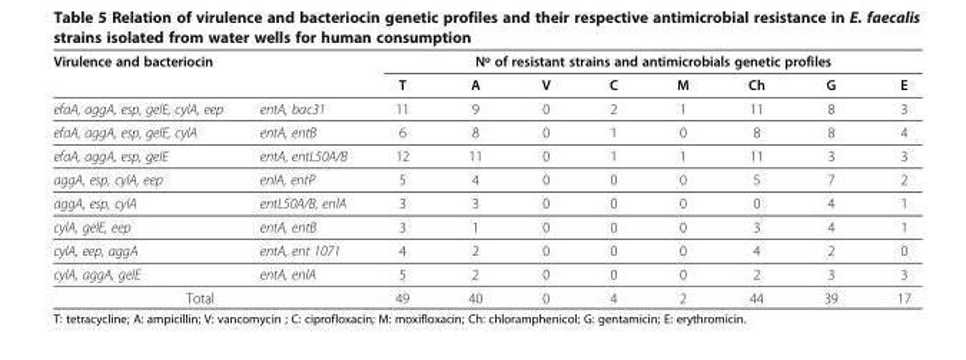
<table><thead><tr><td colspan="2">Virulence and bacteriocin</td><td colspan="8">Nº of resistant strains and antimicrobials genetic profiles</td></tr><tr><td></td><td></td><td>T</td><td>A</td><td>V</td><td>C</td><td>M</td><td>Ch</td><td>G</td><td>E</td></tr></thead><tbody><tr><td>efaA, aggA, esp, gelE, cylA, eep</td><td>entA, bac31</td><td>11</td><td>9</td><td>0</td><td>2</td><td>1</td><td>11</td><td>8</td><td>3</td></tr><tr><td>efaA, aggA, esp, gelE, cylA</td><td>entA, entB</td><td>6</td><td>8</td><td>0</td><td>1</td><td>0</td><td>8</td><td>8</td><td>4</td></tr><tr><td>efaA, aggA, esp, gelE</td><td>entA, entL50A/B</td><td>12</td><td>11</td><td>0</td><td>1</td><td>1</td><td>11</td><td>3</td><td>3</td></tr><tr><td>aggA, esp, cylA, eep</td><td>enlA, entP</td><td>5</td><td>4</td><td>0</td><td>0</td><td>0</td><td>5</td><td>7</td><td>2</td></tr><tr><td>aggA, esp, cylA</td><td>entL50A/B, enlA</td><td>3</td><td>3</td><td>0</td><td>0</td><td>0</td><td>0</td><td>4</td><td>1</td></tr><tr><td>cylA, gelE, eep</td><td>entA, entB</td><td>3</td><td>1</td><td>0</td><td>0</td><td>0</td><td>3</td><td>4</td><td>1</td></tr><tr><td>cylA, eep, aggA</td><td>entA, ent 1071</td><td>4</td><td>2</td><td>0</td><td>0</td><td>0</td><td>4</td><td>2</td><td>0</td></tr><tr><td>cylA, aggA, gelE</td><td>entA, enlA</td><td>5</td><td>2</td><td>0</td><td>0</td><td>0</td><td>2</td><td>3</td><td>3</td></tr><tr><td colspan="2">Total</td><td>49</td><td>40</td><td>0</td><td>4</td><td>2</td><td>44</td><td>39</td><td>17</td></tr></tbody></table>